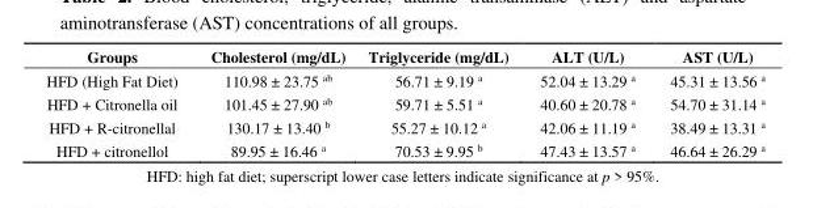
<table><thead><tr><td>Groups</td><td>Cholesterol (mg/dL)</td><td>Triglyceride (mg/dL)</td><td>ALT (U/L)</td><td>AST (U/L)</td></tr></thead><tbody><tr><td>HFD (High Fat Diet)</td><td>110.98 ± 23.75 <sup>ab</sup></td><td>56.71 ± 9.19 <sup>a</sup></td><td>52.04 ± 13.29 <sup>a</sup></td><td>45.31 ± 13.56 <sup>a</sup></td></tr><tr><td>HFD + Citronella oil</td><td>101.45 ± 27.90 <sup>ab</sup></td><td>59.71 ± 5.51 <sup>a</sup></td><td>40.60 ± 20.78 <sup>a</sup></td><td>54.70 ± 31.14 <sup>a</sup></td></tr><tr><td>HFD + R-citronellal</td><td>130.17 ± 13.40 <sup>b</sup></td><td>55.27 ± 10.12 <sup>a</sup></td><td>42.06 ± 11.19 <sup>a</sup></td><td>38.49 ± 13.31 <sup>a</sup></td></tr><tr><td>HFD + citronellol</td><td>89.95 ± 16.46 <sup>a</sup></td><td>70.53 ± 9.95 <sup>b</sup></td><td>47.43 ± 13.57 <sup>a</sup></td><td>46.64 ± 26.29 <sup>a</sup></td></tr></tbody></table>